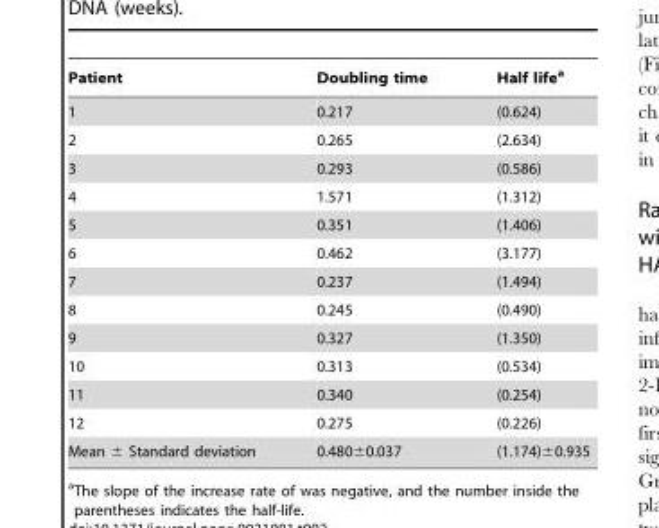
<table><thead><tr><td>Patient</td><td>Doubling time</td><td>Half life<sup>a</sup></td></tr></thead><tbody><tr><td>1</td><td>0.217</td><td>(0.624)</td></tr><tr><td>2</td><td>0.265</td><td>(2.634)</td></tr><tr><td>3</td><td>0.293</td><td>(0.586)</td></tr><tr><td>4</td><td>1.571</td><td>(1.312)</td></tr><tr><td>5</td><td>0.351</td><td>(1.406)</td></tr><tr><td>6</td><td>0.462</td><td>(3.177)</td></tr><tr><td>7</td><td>0.237</td><td>(1.494)</td></tr><tr><td>8</td><td>0.245</td><td>(0.490)</td></tr><tr><td>9</td><td>0.327</td><td>(1.350)</td></tr><tr><td>10</td><td>0.313</td><td>(0.534)</td></tr><tr><td>11</td><td>0.340</td><td>(0.254)</td></tr><tr><td>12</td><td>0.275</td><td>(0.226)</td></tr><tr><td>Mean ± Standard deviation</td><td>0.480±0.037</td><td>(1.174)±0.935</td></tr></tbody></table>